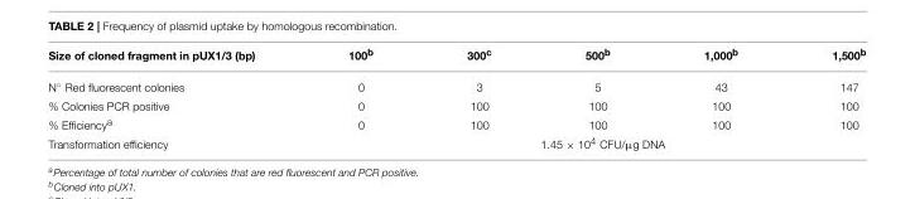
<table><thead><tr><td>Size of cloned fragment in pUX1/3 (bp)</td><td>100<sup>b</sup></td><td>300<sup>c</sup></td><td>500<sup>b</sup></td><td>1,000<sup>b</sup></td><td>1,500<sup>b</sup></td></tr></thead><tbody><tr><td>N◦ Red fluorescent colonies</td><td>0</td><td>3</td><td>5</td><td>43</td><td>147</td></tr><tr><td>% Colonies PCR positive</td><td>0</td><td>100</td><td>100</td><td>100</td><td>100</td></tr><tr><td>% Efficiency<sup>a</sup></td><td>0</td><td>100</td><td>100</td><td>100</td><td>100</td></tr><tr><td>Transformation efficiency</td><td colspan="5">1.45 × 10<sup>4</sup> CFU/µg DNA</td></tr></tbody></table>